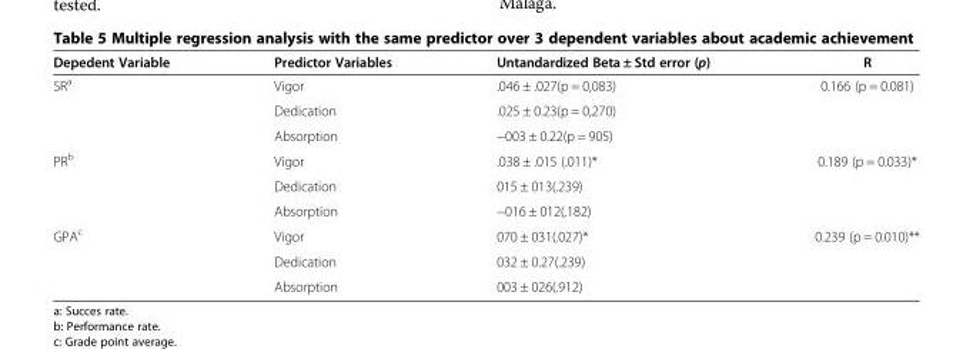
<table><thead><tr><td>Depedent Variable</td><td>Predictor Variables</td><td>Untandardized Beta ± Std error (p)</td><td>R</td></tr></thead><tbody><tr><td rowspan="3">SR<sup>a</sup></td><td>Vigor</td><td>.046 ± .027(p = 0,083)</td><td rowspan="3">0.166 (p = 0.081)</td></tr><tr><td>Dedication</td><td>.025 ± 0.23(p = 0,270)</td></tr><tr><td>Absorption</td><td>−003 ± 0.22(p = 905)</td></tr><tr><td rowspan="3">PR<sup>b</sup></td><td>Vigor</td><td>.038 ± .015 (.011)*</td><td rowspan="3">0.189 (p = 0.033)*</td></tr><tr><td>Dedication</td><td>015 ± 013(.239)</td></tr><tr><td>Absorption</td><td>−016 ± 012(.182)</td></tr><tr><td rowspan="3">GPA<sup>c</sup></td><td>Vigor</td><td>070 ± 031(.027)*</td><td rowspan="3">0.239 (p = 0.010)**</td></tr><tr><td>Dedication</td><td>032 ± 0.27(.239)</td></tr><tr><td>Absorption</td><td>003 ± 026(.912)</td></tr></tbody></table>